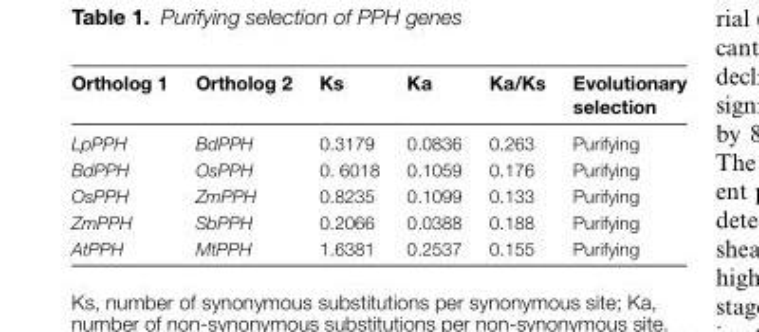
<table><thead><tr><td>Ortholog 1</td><td>Ortholog 2</td><td>Ks</td><td>Ka</td><td>Ka/Ks</td><td>Evolutionary selection</td></tr></thead><tbody><tr><td>LpPPH</td><td>BdPPH</td><td>0.3179</td><td>0.0836</td><td>0.263</td><td>Purifying</td></tr><tr><td>BdPPH</td><td>OsPPH</td><td>0. 6018</td><td>0.1059</td><td>0.176</td><td>Purifying</td></tr><tr><td>OsPPH</td><td>ZmPPH</td><td>0.8235</td><td>0.1099</td><td>0.133</td><td>Purifying</td></tr><tr><td>ZmPPH</td><td>SbPPH</td><td>0.2066</td><td>0.0388</td><td>0.188</td><td>Purifying</td></tr><tr><td>AtPPH</td><td>MtPPH</td><td>1.6381</td><td>0.2537</td><td>0.155</td><td>Purifying</td></tr></tbody></table>